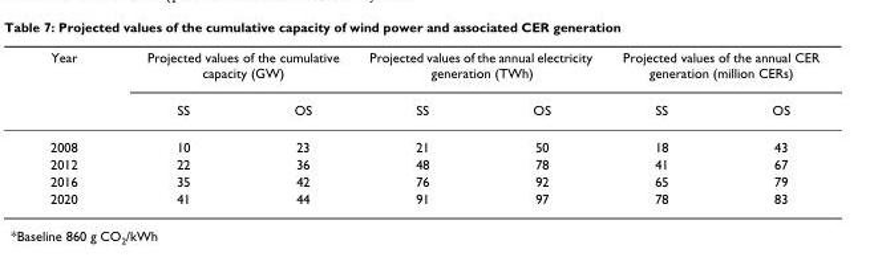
<table><thead><tr><td rowspan="2">Year</td><td colspan="2">Projected values of the cumulative capacity (GW)</td><td colspan="2">Projected values of the annual electricity generation (TWh)</td><td colspan="2">Projected values of the annual CER generation (million CERs)</td></tr><tr><td>SS</td><td>OS</td><td>SS</td><td>OS</td><td>SS</td><td>OS</td></tr></thead><tbody><tr><td>2008</td><td>10</td><td>23</td><td>21</td><td>50</td><td>18</td><td>43</td></tr><tr><td>2012</td><td>22</td><td>36</td><td>48</td><td>78</td><td>41</td><td>67</td></tr><tr><td>2016</td><td>35</td><td>42</td><td>76</td><td>92</td><td>65</td><td>79</td></tr><tr><td>2020</td><td>41</td><td>44</td><td>91</td><td>97</td><td>78</td><td>83</td></tr></tbody></table>